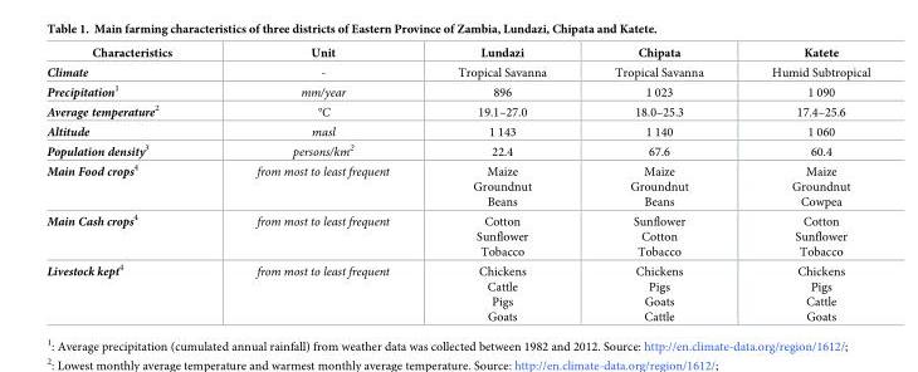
<table><thead><tr><td>Characteristics</td><td>Unit</td><td>Lundazi</td><td>Chipata</td><td>Katete</td></tr></thead><tbody><tr><td>Climate</td><td>-</td><td>Tropical Savanna</td><td>Tropical Savanna</td><td>Humid Subtropical</td></tr><tr><td>Precipitation<sup>1</sup></td><td>mm/year</td><td>896</td><td>1 023</td><td>1 090</td></tr><tr><td>Average temperature<sup>2</sup></td><td>°C</td><td>19.1–27.0</td><td>18.0–25.3</td><td>17.4–25.6</td></tr><tr><td>Altitude</td><td>masl</td><td>1 143</td><td>1 140</td><td>1 060</td></tr><tr><td>Population density<sup>3</sup></td><td>persons/km<sup>2</sup></td><td>22.4</td><td>67.6</td><td>60.4</td></tr><tr><td>Main Food crops<sup>4</sup></td><td>from most to least frequent</td><td>Maize Groundnut Beans</td><td>Maize Groundnut Beans</td><td>Maize Groundnut Cowpea</td></tr><tr><td>Main Cash crops<sup>4</sup></td><td>from most to least frequent</td><td>Cotton Sunflower Tobacco</td><td>Sunflower Cotton Tobacco</td><td>Cotton Sunflower Tobacco</td></tr><tr><td>Livestock kept<sup>4</sup></td><td>from most to least frequent</td><td>Chickens Cattle Pigs Goats</td><td>Chickens Pigs Goats Cattle</td><td>Chickens Pigs Cattle Goats</td></tr></tbody></table>